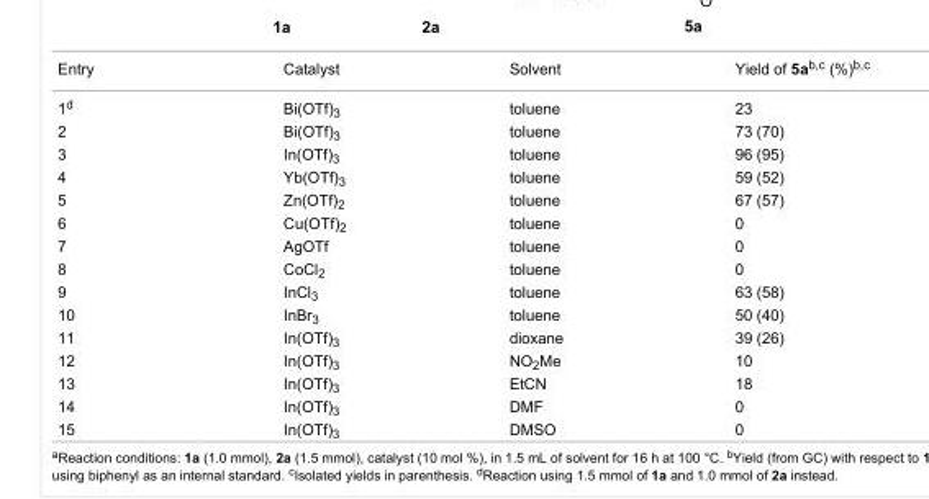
<table><tbody><tr><td>Entry</td><td>Catalyst</td><td>Solvent</td><td>Yield of 5a<sup>b,c</sup> (%)<sup>b,c</sup></td></tr><tr><td>1<sup>d</sup></td><td>Bi(OTf)<sub>3</sub></td><td>toluene</td><td>23</td></tr><tr><td>2</td><td>Bi(OTf)<sub>3</sub></td><td>toluene</td><td>73 (70)</td></tr><tr><td>3</td><td>In(OTf)<sub>3</sub></td><td>toluene</td><td>96 (95)</td></tr><tr><td>4</td><td>Yb(OTf)<sub>3</sub></td><td>toluene</td><td>59 (52)</td></tr><tr><td>5</td><td>Zn(OTf)<sub>2</sub></td><td>toluene</td><td>67 (57)</td></tr><tr><td>6</td><td>Cu(OTf)<sub>2</sub></td><td>toluene</td><td>0</td></tr><tr><td>7</td><td>AgOTf</td><td>toluene</td><td>0</td></tr><tr><td>8</td><td>CoCl<sub>2</sub></td><td>toluene</td><td>0</td></tr><tr><td>9</td><td>InCl<sub>3</sub></td><td>toluene</td><td>63 (58)</td></tr><tr><td>10</td><td>InBr<sub>3</sub></td><td>toluene</td><td>50 (40)</td></tr><tr><td>11</td><td>In(OTf)<sub>3</sub></td><td>dioxane</td><td>39 (26)</td></tr><tr><td>12</td><td>In(OTf)<sub>3</sub></td><td>NO<sub>2</sub>Me</td><td>10</td></tr><tr><td>13</td><td>In(OTf)<sub>3</sub></td><td>EtCN</td><td>18</td></tr><tr><td>14</td><td>In(OTf)<sub>3</sub></td><td>DMF</td><td>0</td></tr><tr><td>15</td><td>In(OTf)<sub>3</sub></td><td>DMSO</td><td>0</td></tr></tbody></table>